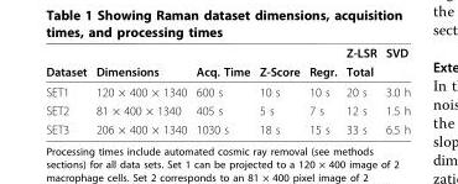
<table><thead><tr><td rowspan="2">Dataset</td><td rowspan="2">Dimensions</td><td rowspan="2">Acq. Time</td><td rowspan="2">Z-Score</td><td rowspan="2">Regr.</td><td rowspan="2">Z-LSR Total</td><td rowspan="2">SVD</td></tr><tr></tr></thead><tbody><tr><td>SET1</td><td>120 × 400 × 1340</td><td>600 s</td><td>10 s</td><td>10 s</td><td>20 s</td><td>3.0 h</td></tr><tr><td>SET2</td><td>81 × 400 × 1340</td><td>405 s</td><td>5 s</td><td>7 s</td><td>12 s</td><td>1.5 h</td></tr><tr><td>SET3</td><td>206 × 400 × 1340</td><td>1030 s</td><td>18 s</td><td>15 s</td><td>33 s</td><td>6.5 h</td></tr></tbody></table>